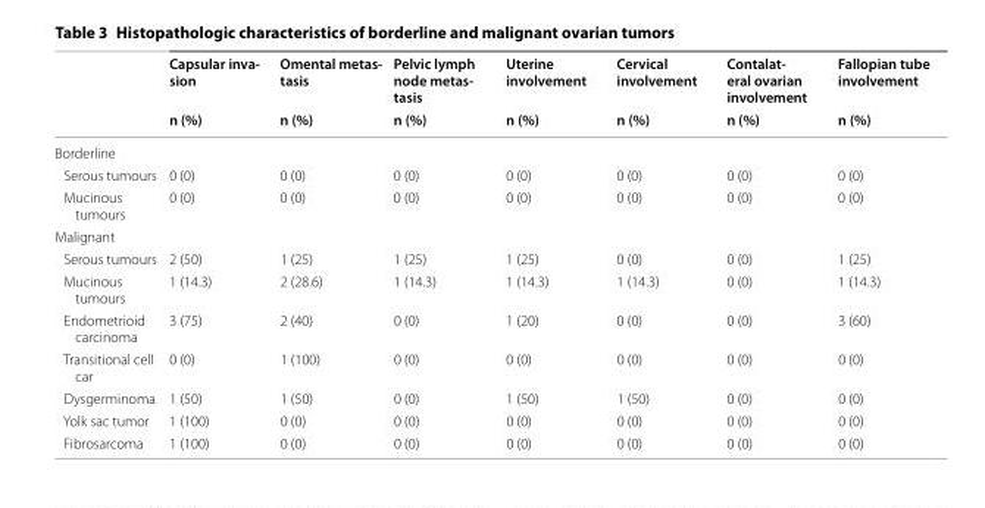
<table><thead><tr><td rowspan="2"></td><td rowspan="2">Capsular inva- sion n (%)</td><td rowspan="2">Omental metas- tasis n (%)</td><td rowspan="2">Pelvic lymph node metas- tasis n (%)</td><td rowspan="2">Uterine involvement n (%)</td><td rowspan="2">Cervical involvement n (%)</td><td rowspan="2">Contalat- eral ovarian involvement n (%)</td><td rowspan="2">Fallopian tube involvement n (%)</td></tr><tr></tr></thead><tbody><tr><td colspan="8">Borderline</td></tr><tr><td>Serous tumours</td><td>0 (0)</td><td>0 (0)</td><td>0 (0)</td><td>0 (0)</td><td>0 (0)</td><td>0 (0)</td><td>0 (0)</td></tr><tr><td>Mucinous tumours</td><td>0 (0)</td><td>0 (0)</td><td>0 (0)</td><td>0 (0)</td><td>0 (0)</td><td>0 (0)</td><td>0 (0)</td></tr><tr><td colspan="8">Malignant</td></tr><tr><td>Serous tumours</td><td>2 (50)</td><td>1 (25)</td><td>1 (25)</td><td>1 (25)</td><td>0 (0)</td><td>0 (0)</td><td>1 (25)</td></tr><tr><td>Mucinous tumours</td><td>1 (14.3)</td><td>2 (28.6)</td><td>1 (14.3)</td><td>1 (14.3)</td><td>1 (14.3)</td><td>0 (0)</td><td>1 (14.3)</td></tr><tr><td>Endometrioid carcinoma</td><td>3 (75)</td><td>2 (40)</td><td>0 (0)</td><td>1 (20)</td><td>0 (0)</td><td>0 (0)</td><td>3 (60)</td></tr><tr><td>Transitional cell car</td><td>0 (0)</td><td>1 (100)</td><td>0 (0)</td><td>0 (0)</td><td>0 (0)</td><td>0 (0)</td><td>0 (0)</td></tr><tr><td>Dysgerminoma</td><td>1 (50)</td><td>1 (50)</td><td>0 (0)</td><td>1 (50)</td><td>1 (50)</td><td>0 (0)</td><td>0 (0)</td></tr><tr><td>Yolk sac tumor</td><td>1 (100)</td><td>0 (0)</td><td>0 (0)</td><td>0 (0)</td><td>0 (0)</td><td>0 (0)</td><td>0 (0)</td></tr><tr><td>Fibrosarcoma</td><td>1 (100)</td><td>0 (0)</td><td>0 (0)</td><td>0 (0)</td><td>0 (0)</td><td>0 (0)</td><td>0 (0)</td></tr></tbody></table>